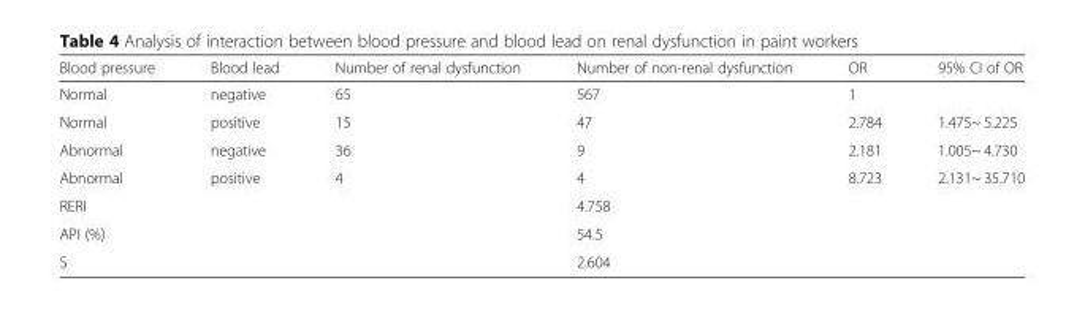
<table><thead><tr><td>Blood pressure</td><td>Blood lead</td><td>Number of renal dysfunction</td><td>Number of non-renal dysfunction</td><td>OR</td><td>95% CI of OR</td></tr></thead><tbody><tr><td>Normal</td><td>negative</td><td>65</td><td>567</td><td>1</td><td></td></tr><tr><td>Normal</td><td>positive</td><td>15</td><td>47</td><td>2.784</td><td>1.475~ 5.225</td></tr><tr><td>Abnormal</td><td>negative</td><td>36</td><td>9</td><td>2.181</td><td>1.005~ 4.730</td></tr><tr><td>Abnormal</td><td>positive</td><td>4</td><td>4</td><td>8.723</td><td>2.131~ 35.710</td></tr><tr><td colspan="2">RERI</td><td></td><td>4.758</td><td colspan="2"></td></tr><tr><td colspan="2">API (%)</td><td></td><td>54.5</td><td colspan="2"></td></tr><tr><td colspan="2">S</td><td></td><td>2.604</td><td colspan="2"></td></tr></tbody></table>